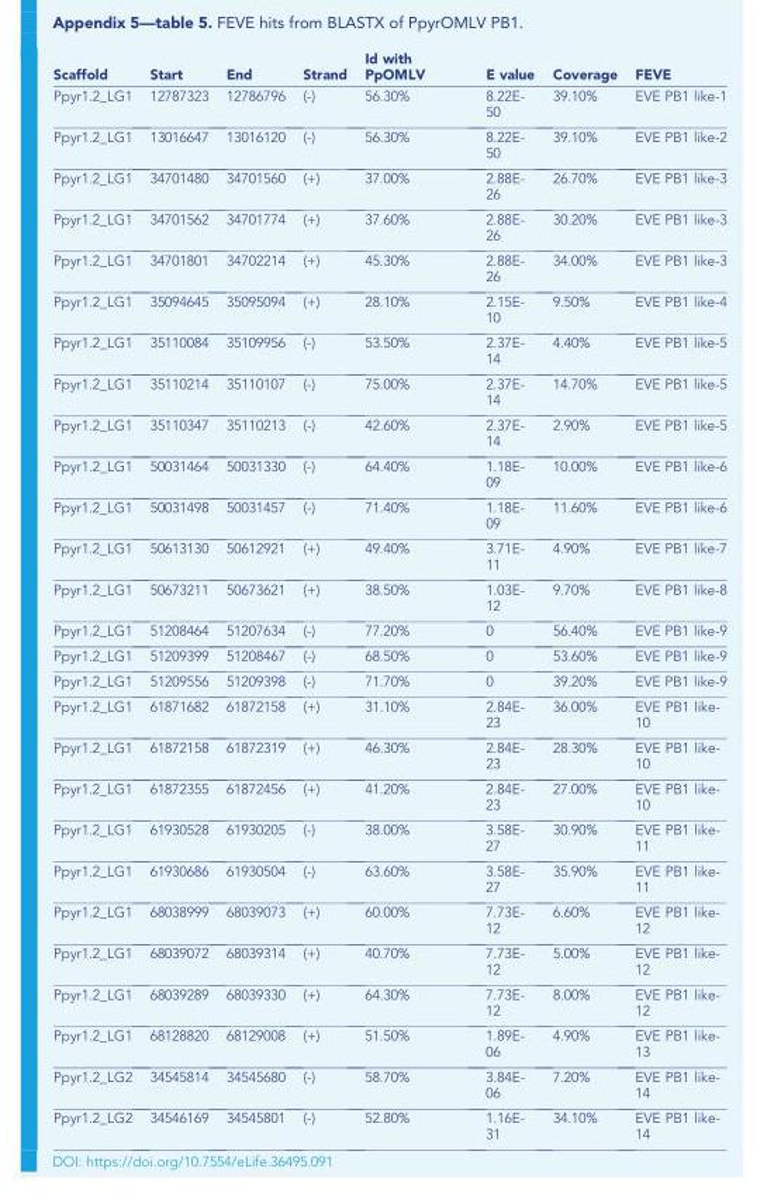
<table><thead><tr><td>Scaffold</td><td>Start</td><td>End</td><td>Strand</td><td>Id with PpOMLV</td><td>E value</td><td>Coverage</td><td>FEVE</td></tr></thead><tbody><tr><td>Ppyr1.2_LG1</td><td>12787323</td><td>12786796</td><td>(-)</td><td>56.30%</td><td>8.22E- 50</td><td>39.10%</td><td>EVE PB1 like-1</td></tr><tr><td>Ppyr1.2_LG1</td><td>13016647</td><td>13016120</td><td>(-)</td><td>56.30%</td><td>8.22E- 50</td><td>39.10%</td><td>EVE PB1 like-2</td></tr><tr><td>Ppyr1.2_LG1</td><td>34701480</td><td>34701560</td><td>(+)</td><td>37.00%</td><td>2.88E- 26</td><td>26.70%</td><td>EVE PB1 like-3</td></tr><tr><td>Ppyr1.2_LG1</td><td>34701562</td><td>34701774</td><td>(+)</td><td>37.60%</td><td>2.88E- 26</td><td>30.20%</td><td>EVE PB1 like-3</td></tr><tr><td>Ppyr1.2_LG1</td><td>34701801</td><td>34702214</td><td>(+)</td><td>45.30%</td><td>2.88E- 26</td><td>34.00%</td><td>EVE PB1 like-3</td></tr><tr><td>Ppyr1.2_LG1</td><td>35094645</td><td>35095094</td><td>(+)</td><td>28.10%</td><td>2.15E- 10</td><td>9.50%</td><td>EVE PB1 like-4</td></tr><tr><td>Ppyr1.2_LG1</td><td>35110084</td><td>35109956</td><td>(-)</td><td>53.50%</td><td>2.37E- 14</td><td>4.40%</td><td>EVE PB1 like-5</td></tr><tr><td>Ppyr1.2_LG1</td><td>35110214</td><td>35110107</td><td>(-)</td><td>75.00%</td><td>2.37E- 14</td><td>14.70%</td><td>EVE PB1 like-5</td></tr><tr><td>Ppyr1.2_LG1</td><td>35110347</td><td>35110213</td><td>(-)</td><td>42.60%</td><td>2.37E- 14</td><td>2.90%</td><td>EVE PB1 like-5</td></tr><tr><td>Ppyr1.2_LG1</td><td>50031464</td><td>50031330</td><td>(-)</td><td>64.40%</td><td>1.18E- 09</td><td>10.00%</td><td>EVE PB1 like-6</td></tr><tr><td>Ppyr1.2_LG1</td><td>50031498</td><td>50031457</td><td>(-)</td><td>71.40%</td><td>1.18E- 09</td><td>11.60%</td><td>EVE PB1 like-6</td></tr><tr><td>Ppyr1.2_LG1</td><td>50613130</td><td>50612921</td><td>(+)</td><td>49.40%</td><td>3.71E- 11</td><td>4.90%</td><td>EVE PB1 like-7</td></tr><tr><td>Ppyr1.2_LG1</td><td>50673211</td><td>50673621</td><td>(+)</td><td>38.50%</td><td>1.03E- 12</td><td>9.70%</td><td>EVE PB1 like-8</td></tr><tr><td>Ppyr1.2_LG1</td><td>51208464</td><td>51207634</td><td>(-)</td><td>77.20%</td><td>0</td><td>56.40%</td><td>EVE PB1 like-9</td></tr><tr><td>Ppyr1.2_LG1</td><td>51209399</td><td>51208467</td><td>(-)</td><td>68.50%</td><td>0</td><td>53.60%</td><td>EVE PB1 like-9</td></tr><tr><td>Ppyr1.2_LG1</td><td>51209556</td><td>51209398</td><td>(-)</td><td>71.70%</td><td>0</td><td>39.20%</td><td>EVE PB1 like-9</td></tr><tr><td>Ppyr1.2_LG1</td><td>61871682</td><td>61872158</td><td>(+)</td><td>31.10%</td><td>2.84E- 23</td><td>36.00%</td><td>EVE PB1 like- 10</td></tr><tr><td>Ppyr1.2_LG1</td><td>61872158</td><td>61872319</td><td>(+)</td><td>46.30%</td><td>2.84E- 23</td><td>28.30%</td><td>EVE PB1 like- 10</td></tr><tr><td>Ppyr1.2_LG1</td><td>61872355</td><td>61872456</td><td>(+)</td><td>41.20%</td><td>2.84E- 23</td><td>27.00%</td><td>EVE PB1 like- 10</td></tr><tr><td>Ppyr1.2_LG1</td><td>61930528</td><td>61930205</td><td>(-)</td><td>38.00%</td><td>3.58E- 27</td><td>30.90%</td><td>EVE PB1 like- 11</td></tr><tr><td>Ppyr1.2_LG1</td><td>61930686</td><td>61930504</td><td>(-)</td><td>63.60%</td><td>3.58E- 27</td><td>35.90%</td><td>EVE PB1 like- 11</td></tr><tr><td>Ppyr1.2_LG1</td><td>68038999</td><td>68039073</td><td>(+)</td><td>60.00%</td><td>7.73E- 12</td><td>6.60%</td><td>EVE PB1 like- 12</td></tr><tr><td>Ppyr1.2_LG1</td><td>68039072</td><td>68039314</td><td>(+)</td><td>40.70%</td><td>7.73E- 12</td><td>5.00%</td><td>EVE PB1 like- 12</td></tr><tr><td>Ppyr1.2_LG1</td><td>68039289</td><td>68039330</td><td>(+)</td><td>64.30%</td><td>7.73E- 12</td><td>8.00%</td><td>EVE PB1 like- 12</td></tr><tr><td>Ppyr1.2_LG1</td><td>68128820</td><td>68129008</td><td>(+)</td><td>51.50%</td><td>1.89E- 06</td><td>4.90%</td><td>EVE PB1 like- 13</td></tr><tr><td>Ppyr1.2_LG2</td><td>34545814</td><td>34545680</td><td>(-)</td><td>58.70%</td><td>3.84E- 06</td><td>7.20%</td><td>EVE PB1 like- 14</td></tr><tr><td>Ppyr1.2_LG2</td><td>34546169</td><td>34545801</td><td>(-)</td><td>52.80%</td><td>1.16E- 31</td><td>34.10%</td><td>EVE PB1 like- 14</td></tr></tbody></table>